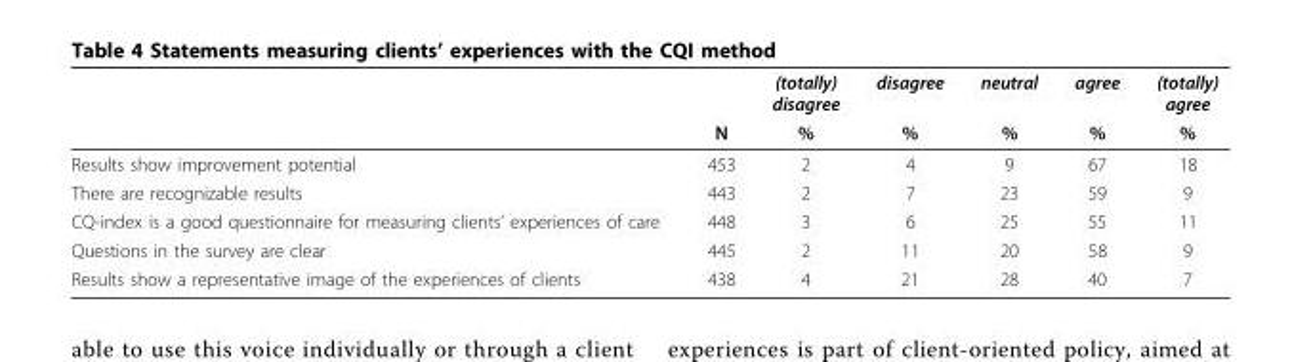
<table><thead><tr><td rowspan="2"></td><td rowspan="2">N</td><td rowspan="2">(totally) disagree %</td><td rowspan="2">disagree %</td><td rowspan="2">neutral %</td><td rowspan="2">agree %</td><td rowspan="2">(totally) agree %</td></tr><tr></tr></thead><tbody><tr><td>Results show improvement potential</td><td>453</td><td>2</td><td>4</td><td>9</td><td>67</td><td>18</td></tr><tr><td>There are recognizable results</td><td>443</td><td>2</td><td>7</td><td>23</td><td>59</td><td>9</td></tr><tr><td>CQ-index is a good questionnaire for measuring clients’ experiences of care</td><td>448</td><td>3</td><td>6</td><td>25</td><td>55</td><td>11</td></tr><tr><td>Questions in the survey are clear</td><td>445</td><td>2</td><td>11</td><td>20</td><td>58</td><td>9</td></tr><tr><td>Results show a representative image of the experiences of clients</td><td>438</td><td>4</td><td>21</td><td>28</td><td>40</td><td>7</td></tr></tbody></table>